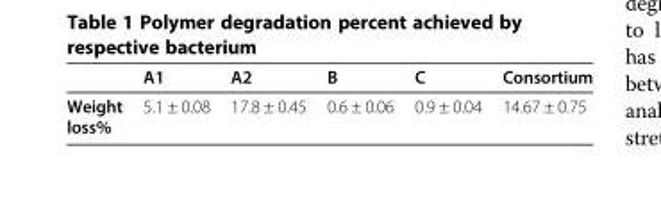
<table><thead><tr><td></td><td>A1</td><td>A2</td><td>B</td><td>C</td><td>Consortium</td></tr></thead><tbody><tr><td>Weight loss%</td><td>5.1 ± 0.08</td><td>17.8 ± 0.45</td><td>0.6 ± 0.06</td><td>0.9 ± 0.04</td><td>14.67 ± 0.75</td></tr></tbody></table>